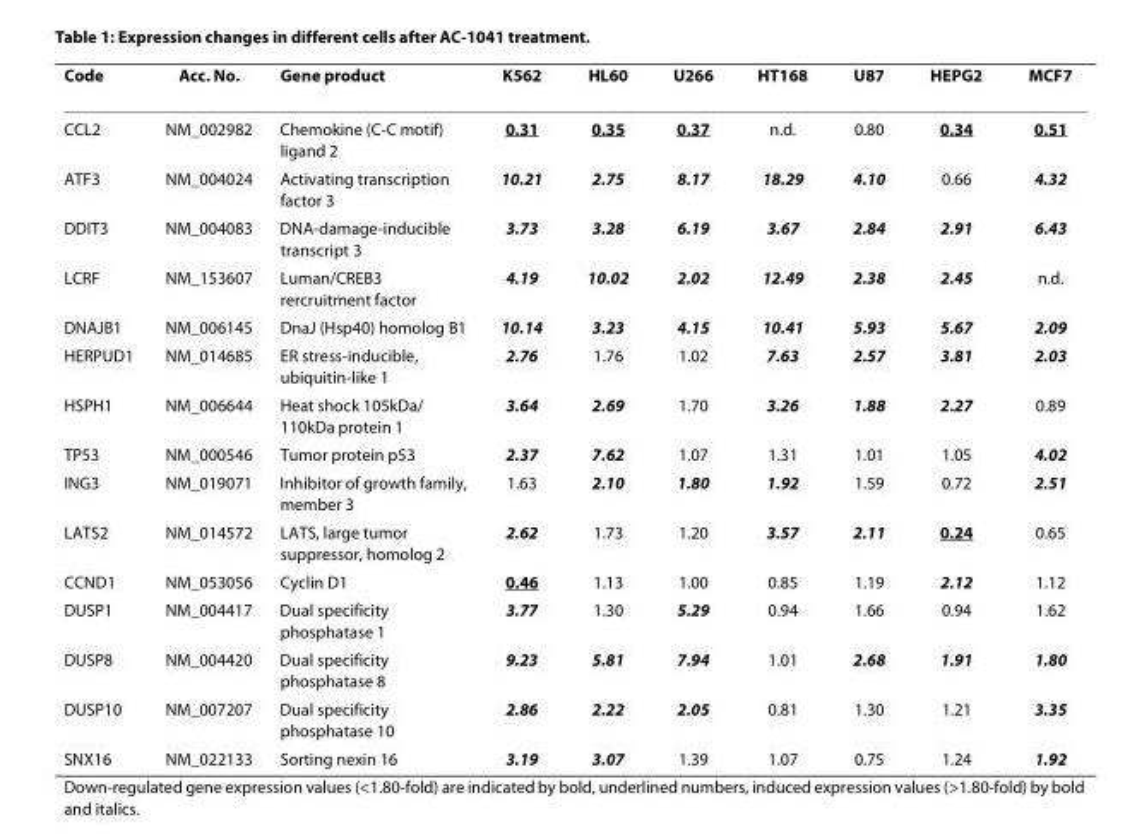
<table><thead><tr><td>Code</td><td>Acc. No.</td><td>Gene product</td><td>K562</td><td>HL60</td><td>U266</td><td>HT168</td><td>U87</td><td>HEPG2</td><td>MCF7</td></tr></thead><tbody><tr><td>CCL2</td><td>NM_002982</td><td>Chemokine (C-C motif) ligand 2</td><td>0.31</td><td>0.35</td><td>0.37</td><td>n.d.</td><td>0.80</td><td>0.34</td><td>0.51</td></tr><tr><td>ATF3</td><td>NM_004024</td><td>Activating transcription factor 3</td><td>10.21</td><td>2.75</td><td>8.17</td><td>18.29</td><td>4.10</td><td>0.66</td><td>4.32</td></tr><tr><td>DDIT3</td><td>NM_004083</td><td>DNA-damage-inducible transcript 3</td><td>3.73</td><td>3.28</td><td>6.19</td><td>3.67</td><td>2.84</td><td>2.91</td><td>6.43</td></tr><tr><td>LCRF</td><td>NM_153607</td><td>Luman/CREB3 rercruitment factor</td><td>4.19</td><td>10.02</td><td>2.02</td><td>12.49</td><td>2.38</td><td>2.45</td><td>n.d.</td></tr><tr><td>DNAJB1</td><td>NM_006145</td><td>DnaJ (Hsp40) homolog B1</td><td>10.14</td><td>3.23</td><td>4.15</td><td>10.41</td><td>5.93</td><td>5.67</td><td>2.09</td></tr><tr><td>HERPUD1</td><td>NM_014685</td><td>ER stress-inducible, ubiquitin-like 1</td><td>2.76</td><td>1.76</td><td>1.02</td><td>7.63</td><td>2.57</td><td>3.81</td><td>2.03</td></tr><tr><td>HSPH1</td><td>NM_006644</td><td>Heat shock 105kDa/ 110kDa protein 1</td><td>3.64</td><td>2.69</td><td>1.70</td><td>3.26</td><td>1.88</td><td>2.27</td><td>0.89</td></tr><tr><td>TP53</td><td>NM_000546</td><td>Tumor protein p53</td><td>2.37</td><td>7.62</td><td>1.07</td><td>1.31</td><td>1.01</td><td>1.05</td><td>4.02</td></tr><tr><td>ING3</td><td>NM_019071</td><td>Inhibitor of growth family, member 3</td><td>1.63</td><td>2.10</td><td>1.80</td><td>1.92</td><td>1.59</td><td>0.72</td><td>2.51</td></tr><tr><td>LATS2</td><td>NM_014572</td><td>LATS, large tumor suppressor, homolog 2</td><td>2.62</td><td>1.73</td><td>1.20</td><td>3.57</td><td>2.11</td><td>0.24</td><td>0.65</td></tr><tr><td>CCND1</td><td>NM_053056</td><td>Cyclin D1</td><td>0.46</td><td>1.13</td><td>1.00</td><td>0.85</td><td>1.19</td><td>2.12</td><td>1.12</td></tr><tr><td>DUSP1</td><td>NM_004417</td><td>Dual specificity phosphatase 1</td><td>3.77</td><td>1.30</td><td>5.29</td><td>0.94</td><td>1.66</td><td>0.94</td><td>1.62</td></tr><tr><td>DUSP8</td><td>NM_004420</td><td>Dual specificity phosphatase 8</td><td>9.23</td><td>5.81</td><td>7.94</td><td>1.01</td><td>2.68</td><td>1.91</td><td>1.80</td></tr><tr><td>DUSP10</td><td>NM_007207</td><td>Dual specificity phosphatase 10</td><td>2.86</td><td>2.22</td><td>2.05</td><td>0.81</td><td>1.30</td><td>1.21</td><td>3.35</td></tr><tr><td>SNX16</td><td>NM_022133</td><td>Sorting nexin 16</td><td>3.19</td><td>3.07</td><td>1.39</td><td>1.07</td><td>0.75</td><td>1.24</td><td>1.92</td></tr></tbody></table>